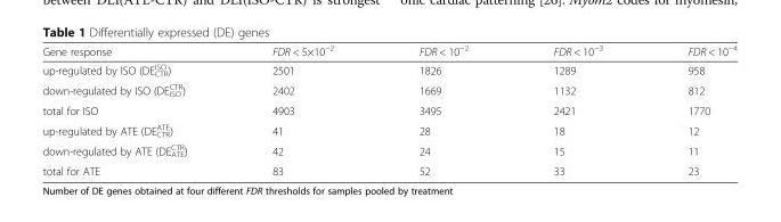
<table><thead><tr><td>Gene response</td><td>FDR &lt; 5×10<sup>−2</sup></td><td>FDR &lt; 10<sup>−2</sup></td><td>FDR &lt; 10<sup>−3</sup></td><td>FDR &lt; 10<sup>−4</sup></td></tr></thead><tbody><tr><td>up-regulated by ISO (DE<sup>ISO</sup> <sub>CTR</sub>)</td><td>2501</td><td>1826</td><td>1289</td><td>958</td></tr><tr><td>down-regulated by ISO (DE<sub>ISO</sub> <sup>CTR</sup>)</td><td>2402</td><td>1669</td><td>1132</td><td>812</td></tr><tr><td>total for ISO</td><td>4903</td><td>3495</td><td>2421</td><td>1770</td></tr><tr><td>up-regulated by ATE (DE<sup>ATE</sup> <sub>CTR</sub>)</td><td>41</td><td>28</td><td>18</td><td>12</td></tr><tr><td>down-regulated by ATE (DE<sub>ATE</sub> <sup>CTR</sup>)</td><td>42</td><td>24</td><td>15</td><td>11</td></tr><tr><td>total for ATE</td><td>83</td><td>52</td><td>33</td><td>23</td></tr></tbody></table>